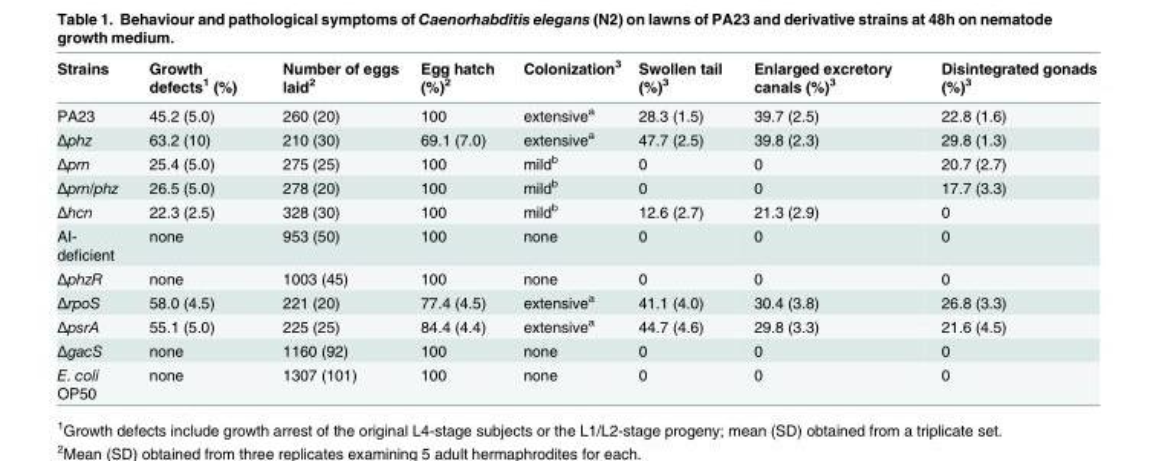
<table><thead><tr><td>Strains</td><td>Growth defects<sup>1</sup> (%)</td><td>Number of eggs laid<sup>2</sup></td><td>Egg hatch (%)<sup>2</sup></td><td>Colonization<sup>3</sup></td><td>Swollen tail (%)<sup>3</sup></td><td>Enlarged excretory canals (%)<sup>3</sup></td><td>Disintegrated gonads (%)<sup>3</sup></td></tr></thead><tbody><tr><td>PA23</td><td>45.2 (5.0)</td><td>260 (20)</td><td>100</td><td>extensive<sup>a</sup></td><td>28.3 (1.5)</td><td>39.7 (2.5)</td><td>22.8 (1.6)</td></tr><tr><td>Δphz</td><td>63.2 (10)</td><td>210 (30)</td><td>69.1 (7.0)</td><td>extensive<sup>a</sup></td><td>47.7 (2.5)</td><td>39.8 (2.3)</td><td>29.8 (1.3)</td></tr><tr><td>Δprn</td><td>25.4 (5.0)</td><td>275 (25)</td><td>100</td><td>mild<sup>b</sup></td><td>0</td><td>0</td><td>20.7 (2.7)</td></tr><tr><td>Δprn/phz</td><td>26.5 (5.0)</td><td>278 (20)</td><td>100</td><td>mild<sup>b</sup></td><td>0</td><td>0</td><td>17.7 (3.3)</td></tr><tr><td>Δhcn</td><td>22.3 (2.5)</td><td>328 (30)</td><td>100</td><td>mild<sup>b</sup></td><td>12.6 (2.7)</td><td>21.3 (2.9)</td><td>0</td></tr><tr><td>AI- deficient</td><td>none</td><td>953 (50)</td><td>100</td><td>none</td><td>0</td><td>0</td><td>0</td></tr><tr><td>ΔphzR</td><td>none</td><td>1003 (45)</td><td>100</td><td>none</td><td>0</td><td>0</td><td>0</td></tr><tr><td>ΔrpoS</td><td>58.0 (4.5)</td><td>221 (20)</td><td>77.4 (4.5)</td><td>extensive<sup>a</sup></td><td>41.1 (4.0)</td><td>30.4 (3.8)</td><td>26.8 (3.3)</td></tr><tr><td>ΔpsrA</td><td>55.1 (5.0)</td><td>225 (25)</td><td>84.4 (4.4)</td><td>extensive<sup>a</sup></td><td>44.7 (4.6)</td><td>29.8 (3.3)</td><td>21.6 (4.5)</td></tr><tr><td>ΔgacS</td><td>none</td><td>1160 (92)</td><td>100</td><td>none</td><td>0</td><td>0</td><td>0</td></tr><tr><td>E. coli OP50</td><td>none</td><td>1307 (101)</td><td>100</td><td>none</td><td>0</td><td>0</td><td>0</td></tr></tbody></table>